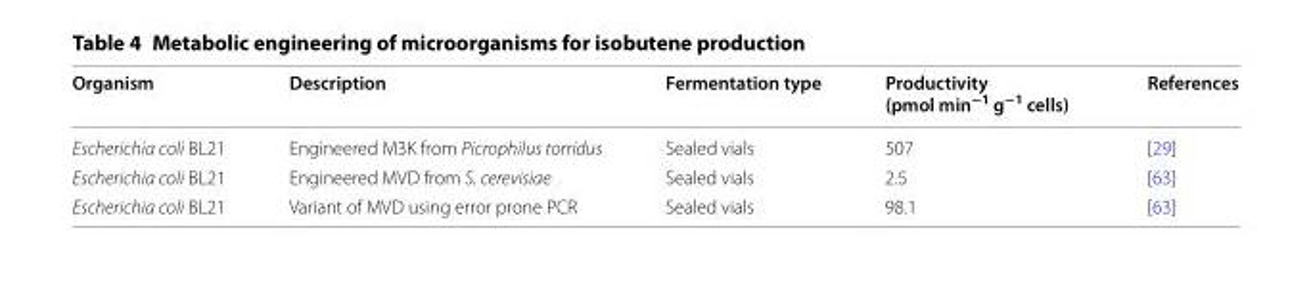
<table><thead><tr><td>Organism</td><td>Description</td><td>Fermentation type</td><td>Productivity (pmol min<sup>−1</sup> g<sup>−1</sup> cells)</td><td>References</td></tr></thead><tbody><tr><td>Escherichia coli BL21</td><td>Engineered M3K from Picrophilus torridus</td><td>Sealed vials</td><td>507</td><td>[29]</td></tr><tr><td>Escherichia coli BL21</td><td>Engineered MVD from S. cerevisiae</td><td>Sealed vials</td><td>2.5</td><td>[63]</td></tr><tr><td>Escherichia coli BL21</td><td>Variant of MVD using error prone PCR</td><td>Sealed vials</td><td>98.1</td><td>[63]</td></tr></tbody></table>